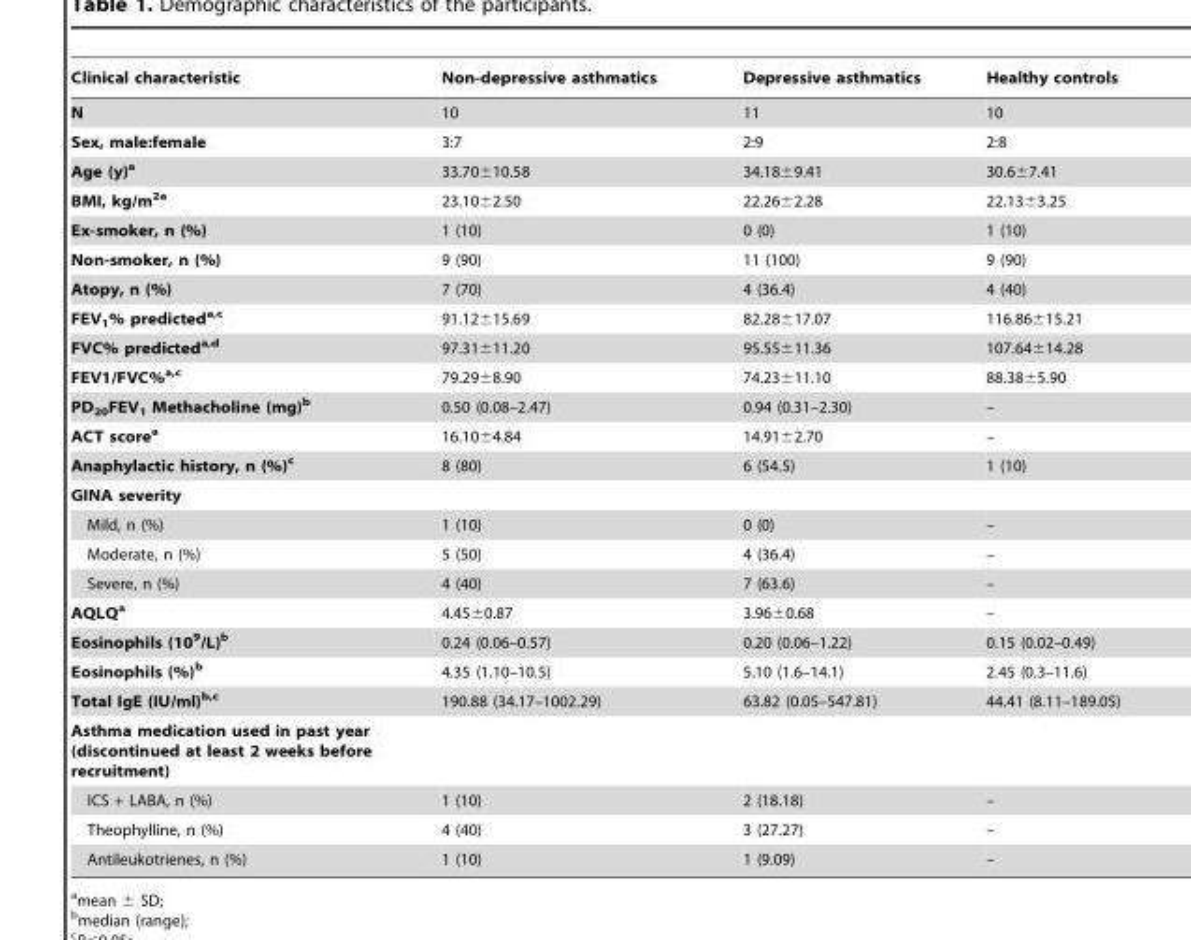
<table><thead><tr><td>Clinical characteristic</td><td>Non-depressive asthmatics</td><td>Depressive asthmatics</td><td>Healthy controls</td></tr></thead><tbody><tr><td>N</td><td>10</td><td>11</td><td>10</td></tr><tr><td>Sex, male:female</td><td>3:7</td><td>2:9</td><td>2:8</td></tr><tr><td>Age (y)a</td><td>33.70±10.58</td><td>34.18±9.41</td><td>30.6±7.41</td></tr><tr><td>BMI, kg/m<sup>2a</sup></td><td>23.10±2.50</td><td>22.26±2.28</td><td>22.13±3.25</td></tr><tr><td>Ex-smoker, n (%)</td><td>1 (10)</td><td>0 (0)</td><td>1 (10)</td></tr><tr><td>Non-smoker, n (%)</td><td>9 (90)</td><td>11 (100)</td><td>9 (90)</td></tr><tr><td>Atopy, n (%)</td><td>7 (70)</td><td>4 (36.4)</td><td>4 (40)</td></tr><tr><td>FEV<sub>1</sub>% predicteda,c</td><td>91.12±15.69</td><td>82.28±17.07</td><td>116.86±15.21</td></tr><tr><td>FVC% predicteda,d</td><td>97.31±11.20</td><td>95.55±11.36</td><td>107.64±14.28</td></tr><tr><td>FEV1/FVC%a,c</td><td>79.29±8.90</td><td>74.23±11.10</td><td>88.38±5.90</td></tr><tr><td>PD<sub>20</sub>FEV<sub>1</sub> Methacholine (mg)b</td><td>0.50 (0.08–2.47)</td><td>0.94 (0.31–2.30)</td><td>–</td></tr><tr><td>ACT scorea</td><td>16.10±4.84</td><td>14.91±2.70</td><td>–</td></tr><tr><td>Anaphylactic history, n (%)c</td><td>8 (80)</td><td>6 (54.5)</td><td>1 (10)</td></tr><tr><td colspan="4">GINA severity</td></tr><tr><td>Mild, n (%)</td><td>1 (10)</td><td>0 (0)</td><td>–</td></tr><tr><td>Moderate, n (%)</td><td>5 (50)</td><td>4 (36.4)</td><td>–</td></tr><tr><td>Severe, n (%)</td><td>4 (40)</td><td>7 (63.6)</td><td>–</td></tr><tr><td>AQLQa</td><td>4.45±0.87</td><td>3.96±0.68</td><td>–</td></tr><tr><td>Eosinophils (10<sup>9</sup>/L)b</td><td>0.24 (0.06–0.57)</td><td>0.20 (0.06–1.22)</td><td>0.15 (0.02–0.49)</td></tr><tr><td>Eosinophils (%)b</td><td>4.35 (1.10–10.5)</td><td>5.10 (1.6–14.1)</td><td>2.45 (0.3–11.6)</td></tr><tr><td>Total IgE (IU/ml)b,c</td><td>190.88 (34.17–1002.29)</td><td>63.82 (0.05–547.81)</td><td>44.41 (8.11–189.05)</td></tr><tr><td colspan="4">Asthma medication used in past year (discontinued at least 2 weeks before recruitment)</td></tr><tr><td>ICS + LABA, n (%)</td><td>1 (10)</td><td>2 (18.18)</td><td>–</td></tr><tr><td>Theophylline, n (%)</td><td>4 (40)</td><td>3 (27.27)</td><td>–</td></tr><tr><td>Antileukotrienes, n (%)</td><td>1 (10)</td><td>1 (9.09)</td><td>–</td></tr></tbody></table>